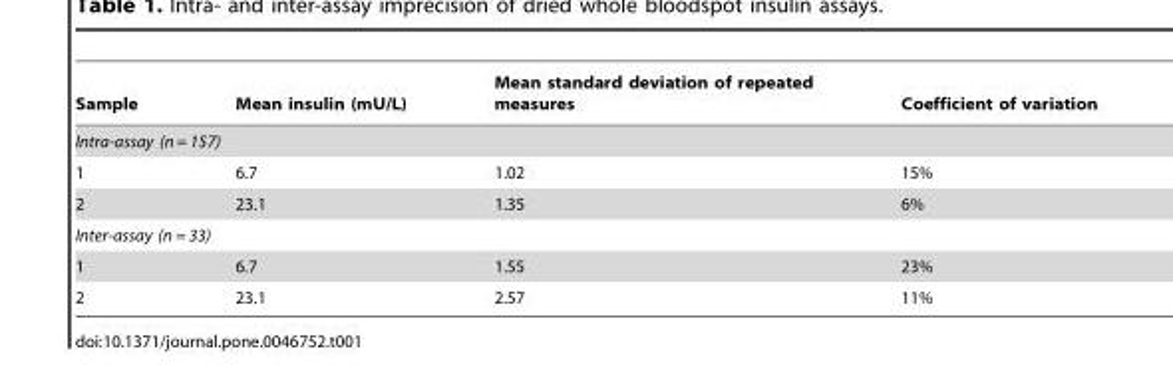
<table><thead><tr><td>Sample</td><td>Mean insulin (mU/L)</td><td>Mean standard deviation of repeated measures</td><td>Coefficient of variation</td></tr></thead><tbody><tr><td colspan="4">Intra-assay (n = 157)</td></tr><tr><td>1</td><td>6.7</td><td>1.02</td><td>15%</td></tr><tr><td>2</td><td>23.1</td><td>1.35</td><td>6%</td></tr><tr><td colspan="4">Inter-assay (n = 33)</td></tr><tr><td>1</td><td>6.7</td><td>1.55</td><td>23%</td></tr><tr><td>2</td><td>23.1</td><td>2.57</td><td>11%</td></tr></tbody></table>